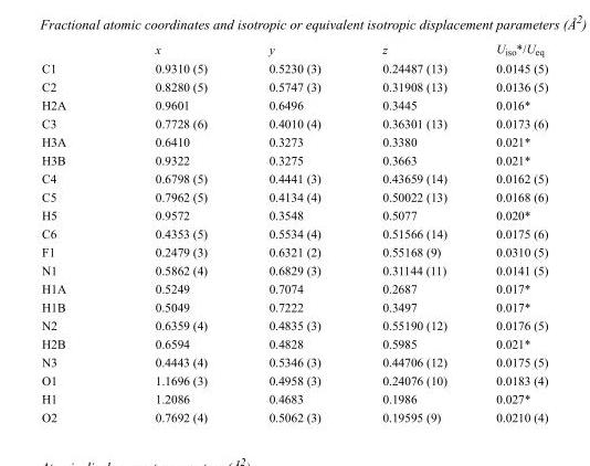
<table><thead><tr><td></td><td>x</td><td>y</td><td>z</td><td>U<sub>iso</sub>*/U<sub>eq</sub></td></tr></thead><tbody><tr><td>C1</td><td>0.9310 (5)</td><td>0.5230 (3)</td><td>0.24487 (13)</td><td>0.0145 (5)</td></tr><tr><td>C2</td><td>0.8280 (5)</td><td>0.5747 (3)</td><td>0.31908 (13)</td><td>0.0136 (5)</td></tr><tr><td>H2A</td><td>0.9601</td><td>0.6496</td><td>0.3445</td><td>0.016*</td></tr><tr><td>C3</td><td>0.7728 (6)</td><td>0.4010 (4)</td><td>0.36301 (13)</td><td>0.0173 (6)</td></tr><tr><td>H3A</td><td>0.6410</td><td>0.3273</td><td>0.3380</td><td>0.021*</td></tr><tr><td>H3B</td><td>0.9322</td><td>0.3275</td><td>0.3663</td><td>0.021*</td></tr><tr><td>C4</td><td>0.6798 (5)</td><td>0.4441 (3)</td><td>0.43659 (14)</td><td>0.0162 (5)</td></tr><tr><td>C5</td><td>0.7962 (5)</td><td>0.4134 (4)</td><td>0.50022 (13)</td><td>0.0168 (6)</td></tr><tr><td>H5</td><td>0.9572</td><td>0.3548</td><td>0.5077</td><td>0.020*</td></tr><tr><td>C6</td><td>0.4353 (5)</td><td>0.5534 (4)</td><td>0.51566 (14)</td><td>0.0175 (6)</td></tr><tr><td>F1</td><td>0.2479 (3)</td><td>0.6321 (2)</td><td>0.55168 (9)</td><td>0.0310 (5)</td></tr><tr><td>N1</td><td>0.5862 (4)</td><td>0.6829 (3)</td><td>0.31144 (11)</td><td>0.0141 (5)</td></tr><tr><td>H1A</td><td>0.5249</td><td>0.7074</td><td>0.2687</td><td>0.017*</td></tr><tr><td>H1B</td><td>0.5049</td><td>0.7222</td><td>0.3497</td><td>0.017*</td></tr><tr><td>N2</td><td>0.6359 (4)</td><td>0.4835 (3)</td><td>0.55190 (12)</td><td>0.0176 (5)</td></tr><tr><td>H2B</td><td>0.6594</td><td>0.4828</td><td>0.5985</td><td>0.021*</td></tr><tr><td>N3</td><td>0.4443 (4)</td><td>0.5346 (3)</td><td>0.44706 (12)</td><td>0.0175 (5)</td></tr><tr><td>O1</td><td>1.1696 (3)</td><td>0.4958 (3)</td><td>0.24076 (10)</td><td>0.0183 (4)</td></tr><tr><td>H1</td><td>1.2086</td><td>0.4683</td><td>0.1986</td><td>0.027*</td></tr><tr><td>O2</td><td>0.7692 (4)</td><td>0.5062 (3)</td><td>0.19595 (9)</td><td>0.0210 (4)</td></tr></tbody></table>